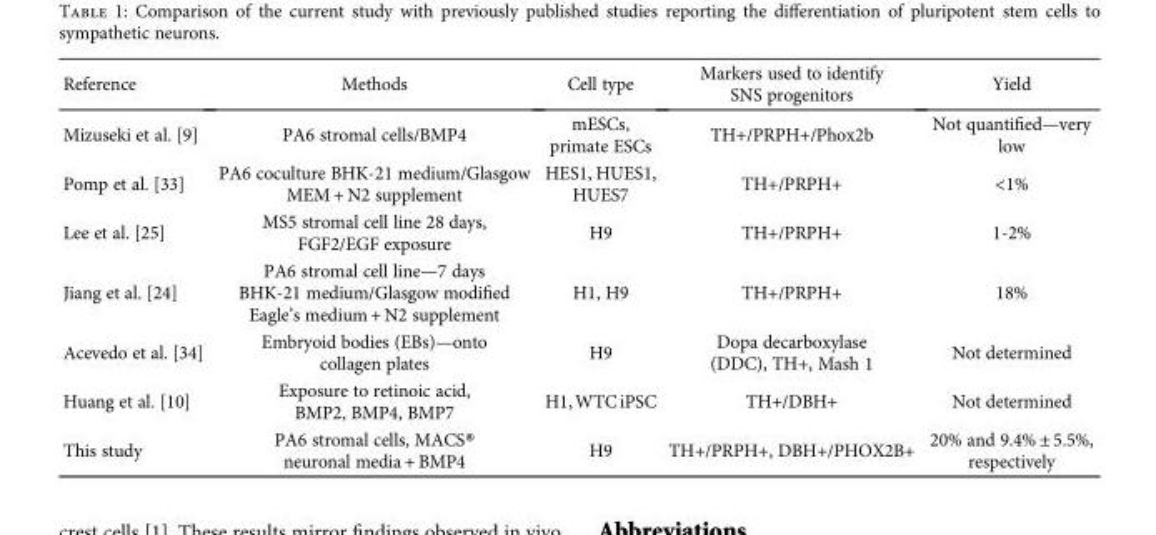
<table><thead><tr><td>Reference</td><td>Methods</td><td>Cell type</td><td>Markers used to identify SNS progenitors</td><td>Yield</td></tr></thead><tbody><tr><td>Mizuseki et al. [9]</td><td>PA6 stromal cells/BMP4</td><td>mESCs, primate ESCs</td><td>TH+/PRPH+/Phox2b</td><td>Not quantified—very low</td></tr><tr><td>Pomp et al. [33]</td><td>PA6 coculture BHK-21 medium/Glasgow MEM + N2 supplement</td><td>HES1, HUES1, HUES7</td><td>TH+/PRPH+</td><td>&lt;1%</td></tr><tr><td>Lee et al. [25]</td><td>MS5 stromal cell line 28 days, FGF2/EGF exposure</td><td>H9</td><td>TH+/PRPH+</td><td>1-2%</td></tr><tr><td>Jiang et al. [24]</td><td>PA6 stromal cell line—7 days BHK-21 medium/Glasgow modified Eagle’s medium + N2 supplement</td><td>H1, H9</td><td>TH+/PRPH+</td><td>18%</td></tr><tr><td>Acevedo et al. [34]</td><td>Embryoid bodies (EBs)—onto collagen plates</td><td>H9</td><td>Dopa decarboxylase (DDC), TH+, Mash 1</td><td>Not determined</td></tr><tr><td>Huang et al. [10]</td><td>Exposure to retinoic acid, BMP2, BMP4, BMP7</td><td>H1,WTCiPSC</td><td>TH+/DBH+</td><td>Not determined</td></tr><tr><td>This study</td><td>PA6 stromal cells, MACS® neuronal media + BMP4</td><td>H9</td><td>TH+/PRPH+, DBH+/PHOX2B+</td><td>20% and 9.4% ± 5.5%, respectively</td></tr></tbody></table>